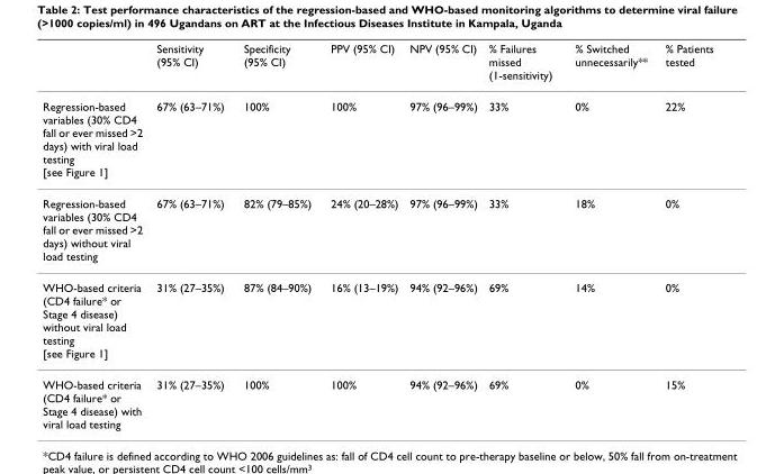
<table><thead><tr><td></td><td>Sensitivity (95% CI)</td><td>Specificity (95% CI)</td><td>PPV (95% CI)</td><td>NPV (95% CI)</td><td>% Failures missed (1-sensitivity)</td><td>% Switched unnecessarily**</td><td>% Patients tested</td></tr></thead><tbody><tr><td>Regression-based variables (30% CD4 fall or ever missed &gt;2 days) with viral load testing [see Figure 1]</td><td>67% (63–71%)</td><td>100%</td><td>100%</td><td>97% (96–99%)</td><td>33%</td><td>0%</td><td>22%</td></tr><tr><td>Regression-based variables (30% CD4 fall or ever missed &gt;2 days) without viral load testing</td><td>67% (63–71%)</td><td>82% (79–85%)</td><td>24% (20–28%)</td><td>97% (96–99%)</td><td>33%</td><td>18%</td><td>0%</td></tr><tr><td>WHO-based criteria (CD4 failure* or Stage 4 disease) without viral load testing [see Figure 1]</td><td>31% (27–35%)</td><td>87% (84–90%)</td><td>16% (13–19%)</td><td>94% (92–96%)</td><td>69%</td><td>14%</td><td>0%</td></tr><tr><td>WHO-based criteria (CD4 failure* or Stage 4 disease) with viral load testing</td><td>31% (27–35%)</td><td>100%</td><td>100%</td><td>94% (92–96%)</td><td>69%</td><td>0%</td><td>15%</td></tr></tbody></table>